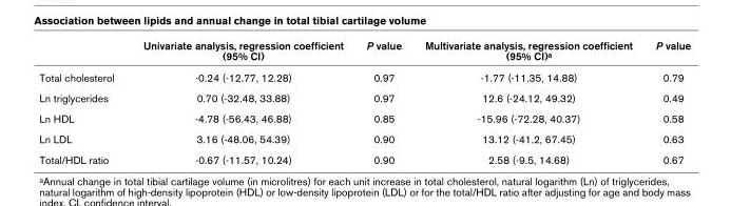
<table><thead><tr><td></td><td>Univariate analysis, regression coefficient (95% CI)</td><td>P value</td><td>Multivariate analysis, regression coefficient (95% CI)<sup>a</sup></td><td>P value</td></tr></thead><tbody><tr><td>Total cholesterol</td><td>-0.24 (-12.77, 12.28)</td><td>0.97</td><td>-1.77 (-11.35, 14.88)</td><td>0.79</td></tr><tr><td>Ln triglycerides</td><td>0.70 (-32.48, 33.88)</td><td>0.97</td><td>12.6 (-24.12, 49.32)</td><td>0.49</td></tr><tr><td>Ln HDL</td><td>-4.78 (-56.43, 46.88)</td><td>0.85</td><td>-15.96 (-72.28, 40.37)</td><td>0.58</td></tr><tr><td>Ln LDL</td><td>3.16 (-48.06, 54.39)</td><td>0.90</td><td>13.12 (-41.2, 67.45)</td><td>0.63</td></tr><tr><td>Total/HDL ratio</td><td>-0.67 (-11.57, 10.24)</td><td>0.90</td><td>2.58 (-9.5, 14.68)</td><td>0.67</td></tr></tbody></table>